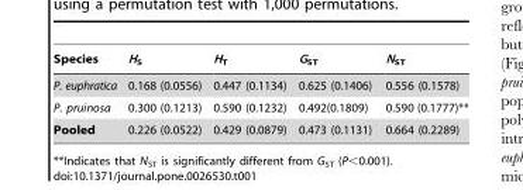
<table><thead><tr><td>Species</td><td>H<sub>S</sub></td><td>H<sub>T</sub></td><td>G<sub>ST</sub></td><td>N<sub>ST</sub></td></tr></thead><tbody><tr><td>P. euphratica</td><td>0.168 (0.0556)</td><td>0.447 (0.1134)</td><td>0.625 (0.1406)</td><td>0.556 (0.1578)</td></tr><tr><td>P. pruinosa</td><td>0.300 (0.1213)</td><td>0.590 (0.1232)</td><td>0.492(0.1809)</td><td>0.590 (0.1777)**</td></tr><tr><td>Pooled</td><td>0.226 (0.0522)</td><td>0.429 (0.0879)</td><td>0.473 (0.1131)</td><td>0.664 (0.2289)</td></tr></tbody></table>